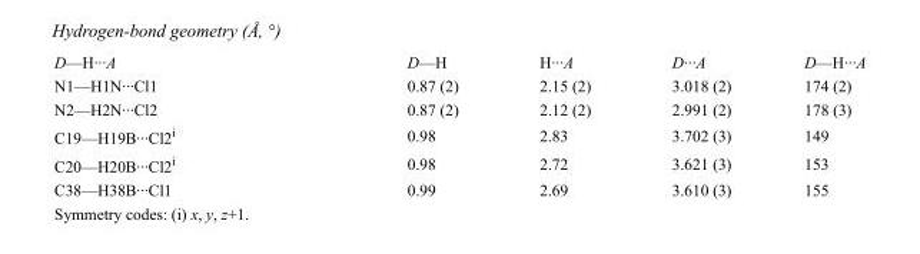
<table><tbody><tr><td>D—H···A</td><td>D—H</td><td>H···A</td><td>D···A</td><td>D—H···A</td></tr><tr><td>N1—H1N···Cl1</td><td>0.87 (2)</td><td>2.15 (2)</td><td>3.018 (2)</td><td>174 (2)</td></tr><tr><td>N2—H2N···Cl2</td><td>0.87 (2)</td><td>2.12 (2)</td><td>2.991 (2)</td><td>178 (3)</td></tr><tr><td>C19—H19B···Cl2<sup>i</sup></td><td>0.98</td><td>2.83</td><td>3.702 (3)</td><td>149</td></tr><tr><td>C20—H20B···Cl2<sup>i</sup></td><td>0.98</td><td>2.72</td><td>3.621 (3)</td><td>153</td></tr><tr><td>C38—H38B···Cl1</td><td>0.99</td><td>2.69</td><td>3.610 (3)</td><td>155</td></tr></tbody></table>